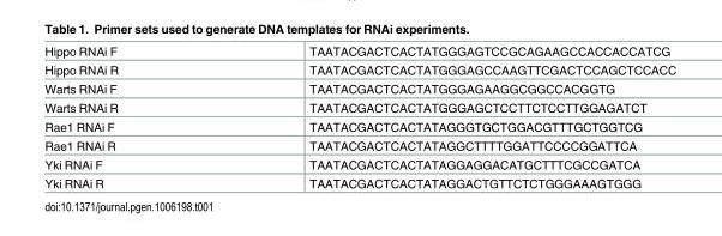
<table><tbody><tr><td>Hippo RNAi F</td><td>TAATACGACTCACTATGGGAGTCCGCAGAAGCCACCACCATCG</td></tr><tr><td>Hippo RNAi R</td><td>TAATACGACTCACTATGGGAGCCAAGTTCGACTCCAGCTCCACC</td></tr><tr><td>Warts RNAi F</td><td>TAATACGACTCACTATGGGAGAAGGCGGCCACGGTG</td></tr><tr><td>Warts RNAi R</td><td>TAATACGACTCACTATGGGAGCTCCTTCTCCTTGGAGATCT</td></tr><tr><td>Rae1 RNAi F</td><td>TAATACGACTCACTATAGGGTGCTGGACGTTTGCTGGTCG</td></tr><tr><td>Rae1 RNAi R</td><td>TAATACGACTCACTATAGGCTTTTGGATTCCCCGGATTCA</td></tr><tr><td>Yki RNAi F</td><td>TAATACGACTCACTATAGGAGGACATGCTTTCGCCGATCA</td></tr><tr><td>Yki RNAi R</td><td>TAATACGACTCACTATAGGACTGTTCTCTGGGAAAGTGGG</td></tr></tbody></table>